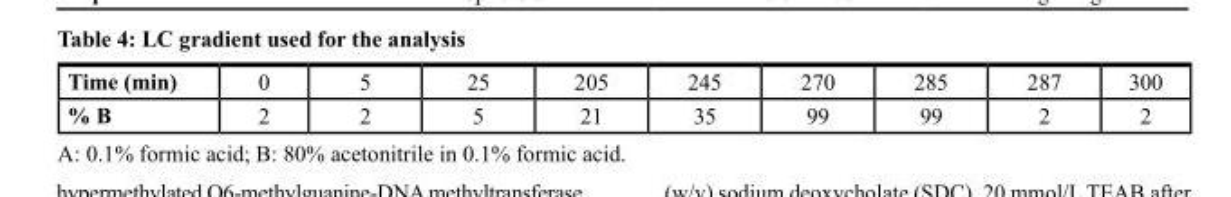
<table><tbody><tr><td>Time (min)</td><td>0</td><td>5</td><td>25</td><td>205</td><td>245</td><td>270</td><td>285</td><td>287</td><td>300</td></tr><tr><td>% B</td><td>2</td><td>2</td><td>5</td><td>21</td><td>35</td><td>99</td><td>99</td><td>2</td><td>2</td></tr></tbody></table>